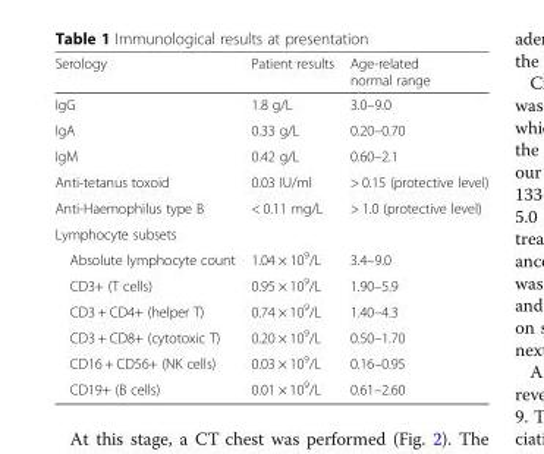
<table><thead><tr><td>Serology</td><td>Patient results</td><td>Age-related normal range</td></tr></thead><tbody><tr><td>IgG</td><td>1.8 g/L</td><td>3.0–9.0</td></tr><tr><td>IgA</td><td>0.33 g/L</td><td>0.20–0.70</td></tr><tr><td>IgM</td><td>0.42 g/L</td><td>0.60–2.1</td></tr><tr><td>Anti-tetanus toxoid</td><td>0.03 IU/ml</td><td>&gt; 0.15 (protective level)</td></tr><tr><td>Anti-Haemophilus type B</td><td>&lt; 0.11 mg/L</td><td>&gt; 1.0 (protective level)</td></tr><tr><td colspan="3">Lymphocyte subsets</td></tr><tr><td>Absolute lymphocyte count</td><td>1.04 × 10<sup>9</sup>/L</td><td>3.4–9.0</td></tr><tr><td>CD3+ (T cells)</td><td>0.95 × 10<sup>9</sup>/L</td><td>1.90–5.9</td></tr><tr><td>CD3 + CD4+ (helper T)</td><td>0.74 × 10<sup>9</sup>/L</td><td>1.40–4.3</td></tr><tr><td>CD3 + CD8+ (cytotoxic T)</td><td>0.20 × 10<sup>9</sup>/L</td><td>0.50–1.70</td></tr><tr><td>CD16 + CD56+ (NK cells)</td><td>0.03 × 10<sup>9</sup>/L</td><td>0.16–0.95</td></tr><tr><td>CD19+ (B cells)</td><td>0.01 × 10<sup>9</sup>/L</td><td>0.61–2.60</td></tr></tbody></table>